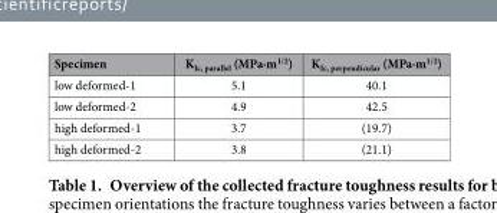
<table><thead><tr><td>Specimen</td><td>K<sub>Ic, parallel</sub> (MPa∙m<sup>1/2</sup>)</td><td>K<sub>Ic, perpendicular</sub> (MPa∙m<sup>1/2</sup>)</td></tr></thead><tbody><tr><td>low deformed-1</td><td>5.1</td><td>40.1</td></tr><tr><td>low deformed-2</td><td>4.9</td><td>42.5</td></tr><tr><td>high deformed-1</td><td>3.7</td><td>(19.7)</td></tr><tr><td>high deformed-2</td><td>3.8</td><td>(21.1)</td></tr></tbody></table>